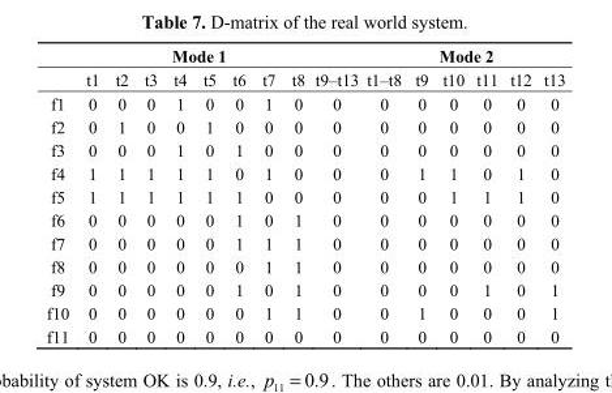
<table><thead><tr><td colspan="10">Mode 1</td><td colspan="6">Mode 2</td></tr><tr><td></td><td>t1</td><td>t2</td><td>t3</td><td>t4</td><td>t5</td><td>t6</td><td>t7</td><td>t8</td><td>t9–t13</td><td>t1–t8</td><td>t9</td><td>t10</td><td>t11</td><td>t12</td><td>t13</td></tr></thead><tbody><tr><td>f1</td><td>0</td><td>0</td><td>0</td><td>1</td><td>0</td><td>0</td><td>1</td><td>0</td><td>0</td><td>0</td><td>0</td><td>0</td><td>0</td><td>0</td><td>0</td></tr><tr><td>f2</td><td>0</td><td>1</td><td>0</td><td>0</td><td>1</td><td>0</td><td>0</td><td>0</td><td>0</td><td>0</td><td>0</td><td>0</td><td>0</td><td>0</td><td>0</td></tr><tr><td>f3</td><td>0</td><td>0</td><td>0</td><td>1</td><td>0</td><td>1</td><td>0</td><td>0</td><td>0</td><td>0</td><td>0</td><td>0</td><td>0</td><td>0</td><td>0</td></tr><tr><td>f4</td><td>1</td><td>1</td><td>1</td><td>1</td><td>1</td><td>0</td><td>1</td><td>0</td><td>0</td><td>0</td><td>1</td><td>1</td><td>0</td><td>1</td><td>0</td></tr><tr><td>f5</td><td>1</td><td>1</td><td>1</td><td>1</td><td>1</td><td>1</td><td>0</td><td>0</td><td>0</td><td>0</td><td>0</td><td>1</td><td>1</td><td>1</td><td>0</td></tr><tr><td>f6</td><td>0</td><td>0</td><td>0</td><td>0</td><td>0</td><td>1</td><td>0</td><td>1</td><td>0</td><td>0</td><td>0</td><td>0</td><td>0</td><td>0</td><td>0</td></tr><tr><td>f7</td><td>0</td><td>0</td><td>0</td><td>0</td><td>0</td><td>1</td><td>1</td><td>1</td><td>0</td><td>0</td><td>0</td><td>0</td><td>0</td><td>0</td><td>0</td></tr><tr><td>f8</td><td>0</td><td>0</td><td>0</td><td>0</td><td>0</td><td>0</td><td>1</td><td>1</td><td>0</td><td>0</td><td>0</td><td>0</td><td>0</td><td>0</td><td>0</td></tr><tr><td>f9</td><td>0</td><td>0</td><td>0</td><td>0</td><td>0</td><td>1</td><td>0</td><td>1</td><td>0</td><td>0</td><td>0</td><td>0</td><td>1</td><td>0</td><td>1</td></tr><tr><td>f10</td><td>0</td><td>0</td><td>0</td><td>0</td><td>0</td><td>0</td><td>1</td><td>1</td><td>0</td><td>0</td><td>1</td><td>0</td><td>0</td><td>0</td><td>1</td></tr><tr><td>f11</td><td>0</td><td>0</td><td>0</td><td>0</td><td>0</td><td>0</td><td>0</td><td>0</td><td>0</td><td>0</td><td>0</td><td>0</td><td>0</td><td>0</td><td>0</td></tr></tbody></table>